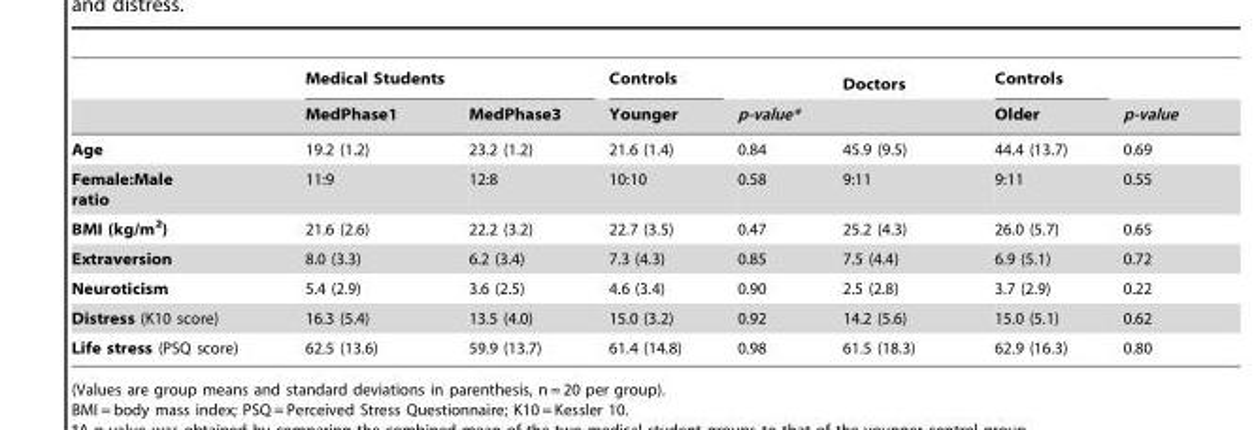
<table><thead><tr><td rowspan="2"></td><td colspan="2">Medical Students</td><td rowspan="2">Controls Younger</td><td rowspan="2">p-value*</td><td rowspan="2">Doctors</td><td rowspan="2">Controls Older</td><td rowspan="2">p-value</td></tr><tr><td>MedPhase1</td><td>MedPhase3</td></tr></thead><tbody><tr><td>Age</td><td>19.2 (1.2)</td><td>23.2 (1.2)</td><td>21.6 (1.4)</td><td>0.84</td><td>45.9 (9.5)</td><td>44.4 (13.7)</td><td>0.69</td></tr><tr><td>Female:Male ratio</td><td>11:9</td><td>12:8</td><td>10:10</td><td>0.58</td><td>9:11</td><td>9:11</td><td>0.55</td></tr><tr><td>BMI (kg/m<sup>2</sup>)</td><td>21.6 (2.6)</td><td>22.2 (3.2)</td><td>22.7 (3.5)</td><td>0.47</td><td>25.2 (4.3)</td><td>26.0 (5.7)</td><td>0.65</td></tr><tr><td>Extraversion</td><td>8.0 (3.3)</td><td>6.2 (3.4)</td><td>7.3 (4.3)</td><td>0.85</td><td>7.5 (4.4)</td><td>6.9 (5.1)</td><td>0.72</td></tr><tr><td>Neuroticism</td><td>5.4 (2.9)</td><td>3.6 (2.5)</td><td>4.6 (3.4)</td><td>0.90</td><td>2.5 (2.8)</td><td>3.7 (2.9)</td><td>0.22</td></tr><tr><td>Distress (K10 score)</td><td>16.3 (5.4)</td><td>13.5 (4.0)</td><td>15.0 (3.2)</td><td>0.92</td><td>14.2 (5.6)</td><td>15.0 (5.1)</td><td>0.62</td></tr><tr><td>Life stress (PSQ score)</td><td>62.5 (13.6)</td><td>59.9 (13.7)</td><td>61.4 (14.8)</td><td>0.98</td><td>61.5 (18.3)</td><td>62.9 (16.3)</td><td>0.80</td></tr></tbody></table>